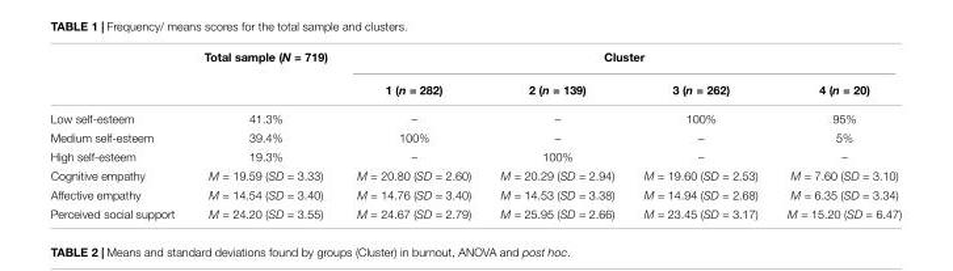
<table><thead><tr><td rowspan="2"></td><td rowspan="2">Total sample (N = 719)</td><td colspan="4">Cluster</td></tr><tr><td>1 (n = 282)</td><td>2 (n = 139)</td><td>3 (n = 262)</td><td>4 (n = 20)</td></tr></thead><tbody><tr><td>Low self-esteem</td><td>41.3%</td><td>–</td><td>–</td><td>100%</td><td>95%</td></tr><tr><td>Medium self-esteem</td><td>39.4%</td><td>100%</td><td>–</td><td>–</td><td>5%</td></tr><tr><td>High self-esteem</td><td>19.3%</td><td>–</td><td>100%</td><td>–</td><td>–</td></tr><tr><td>Cognitive empathy</td><td>M = 19.59 (SD = 3.33)</td><td>M = 20.80 (SD = 2.60)</td><td>M = 20.29 (SD = 2.94)</td><td>M = 19.60 (SD = 2.53)</td><td>M = 7.60 (SD = 3.10)</td></tr><tr><td>Affective empathy</td><td>M = 14.54 (SD = 3.40)</td><td>M = 14.76 (SD = 3.40)</td><td>M = 14.53 (SD = 3.38)</td><td>M = 14.94 (SD = 2.68)</td><td>M = 6.35 (SD = 3.34)</td></tr><tr><td>Perceived social support</td><td>M = 24.20 (SD = 3.55)</td><td>M = 24.67 (SD = 2.79)</td><td>M = 25.95 (SD = 2.66)</td><td>M = 23.45 (SD = 3.17)</td><td>M = 15.20 (SD = 6.47)</td></tr></tbody></table>